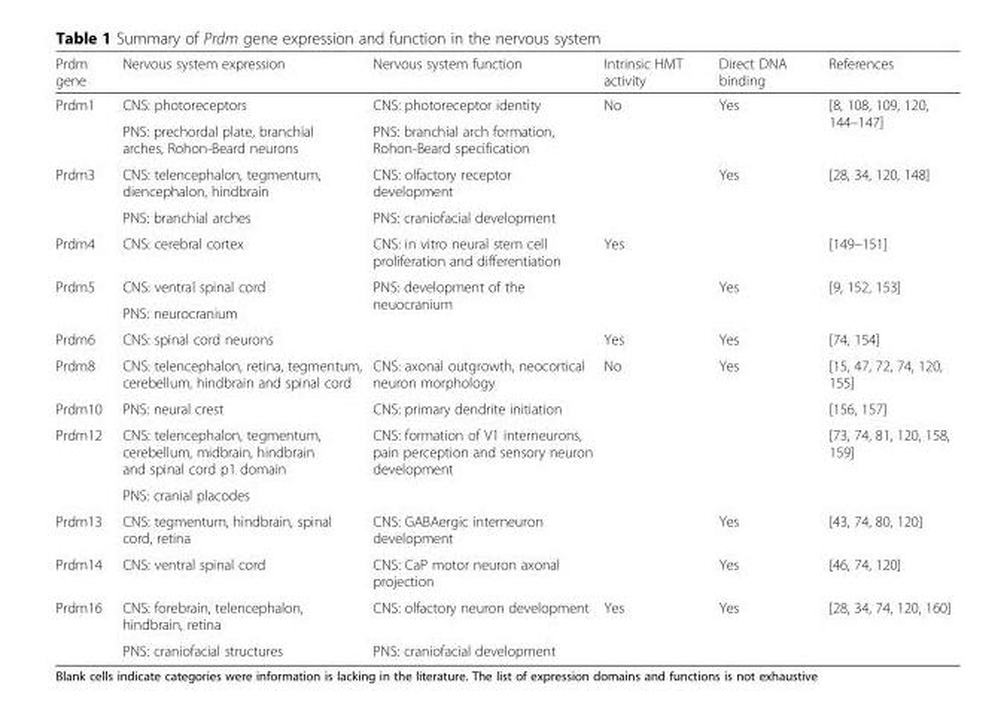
<table><thead><tr><td>Prdm gene</td><td>Nervous system expression</td><td>Nervous system function</td><td>Intrinsic HMT activity</td><td>Direct DNA binding</td><td>References</td></tr></thead><tbody><tr><td rowspan="2">Prdm1</td><td>CNS: photoreceptors</td><td>CNS: photoreceptor identity</td><td>No</td><td>Yes</td><td rowspan="2">[8, 108, 109, 120, 144–147]</td></tr><tr><td>PNS: prechordal plate, branchial arches, Rohon-Beard neurons</td><td>PNS: branchial arch formation, Rohon-Beard specification</td><td></td><td></td></tr><tr><td rowspan="2">Prdm3</td><td>CNS: telencephalon, tegmentum, diencephalon, hindbrain</td><td>CNS: olfactory receptor development</td><td></td><td>Yes</td><td rowspan="2">[28, 34, 120, 148]</td></tr><tr><td>PNS: branchial arches</td><td>PNS: craniofacial development</td><td></td><td></td></tr><tr><td>Prdm4</td><td>CNS: cerebral cortex</td><td>CNS: in vitro neural stem cell proliferation and differentiation</td><td>Yes</td><td></td><td>[149–151]</td></tr><tr><td rowspan="2">Prdm5</td><td>CNS: ventral spinal cord</td><td rowspan="2">PNS: development of the neuocranium</td><td rowspan="2"></td><td rowspan="2">Yes</td><td rowspan="2">[9, 152, 153]</td></tr><tr><td>PNS: neurocranium</td></tr><tr><td>Prdm6</td><td>CNS: spinal cord neurons</td><td></td><td>Yes</td><td>Yes</td><td>[74, 154]</td></tr><tr><td>Prdm8</td><td>CNS: telencephalon, retina, tegmentum, cerebellum, hindbrain and spinal cord</td><td>CNS: axonal outgrowth, neocortical neuron morphology</td><td>No</td><td>Yes</td><td>[15, 47, 72, 74, 120, 155]</td></tr><tr><td>Prdm10</td><td>PNS: neural crest</td><td>CNS: primary dendrite initiation</td><td></td><td></td><td>[156, 157]</td></tr><tr><td rowspan="2">Prdm12</td><td>CNS: telencephalon, tegmentum, cerebellum, midbrain, hindbrain and spinal cord p1 domain</td><td rowspan="2">CNS: formation of V1 interneurons, pain perception and sensory neuron development</td><td rowspan="2"></td><td rowspan="2"></td><td rowspan="2">[73, 74, 81, 120, 158, 159]</td></tr><tr><td>PNS: cranial placodes</td></tr><tr><td>Prdm13</td><td>CNS: tegmentum, hindbrain, spinal cord, retina</td><td>CNS: GABAergic interneuron development</td><td></td><td>Yes</td><td>[43, 74, 80, 120]</td></tr><tr><td>Prdm14</td><td>CNS: ventral spinal cord</td><td>CNS: CaP motor neuron axonal projection</td><td></td><td>Yes</td><td>[46, 74, 120]</td></tr><tr><td rowspan="2">Prdm16</td><td>CNS: forebrain, telencephalon, hindbrain, retina</td><td>CNS: olfactory neuron development</td><td rowspan="2">Yes</td><td rowspan="2">Yes</td><td rowspan="2">[28, 34, 74, 120, 160]</td></tr><tr><td>PNS: craniofacial structures</td><td>PNS: craniofacial development</td></tr></tbody></table>